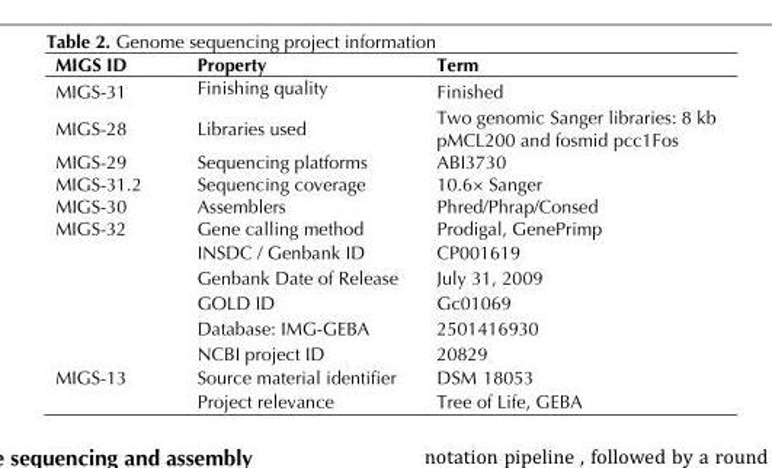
<table><thead><tr><td>MIGS ID</td><td>Property</td><td>Term</td></tr></thead><tbody><tr><td>MIGS-31</td><td>Finishing quality</td><td>Finished</td></tr><tr><td>MIGS-28</td><td>Libraries used</td><td>Two genomic Sanger libraries: 8 kb pMCL200 and fosmid pcc1Fos</td></tr><tr><td>MIGS-29</td><td>Sequencing platforms</td><td>ABI3730</td></tr><tr><td>MIGS-31.2</td><td>Sequencing coverage</td><td>10.6× Sanger</td></tr><tr><td>MIGS-30</td><td>Assemblers</td><td>Phred/Phrap/Consed</td></tr><tr><td rowspan="6">MIGS-32</td><td>Gene calling method</td><td>Prodigal, GenePrimp</td></tr><tr><td>INSDC / Genbank ID</td><td>CP001619</td></tr><tr><td>Genbank Date of Release</td><td>July 31, 2009</td></tr><tr><td>GOLD ID</td><td>Gc01069</td></tr><tr><td>Database: IMG-GEBA</td><td>2501416930</td></tr><tr><td>NCBI project ID</td><td>20829</td></tr><tr><td rowspan="2">MIGS-13</td><td>Source material identifier</td><td>DSM 18053</td></tr><tr><td>Project relevance</td><td>Tree of Life, GEBA</td></tr></tbody></table>